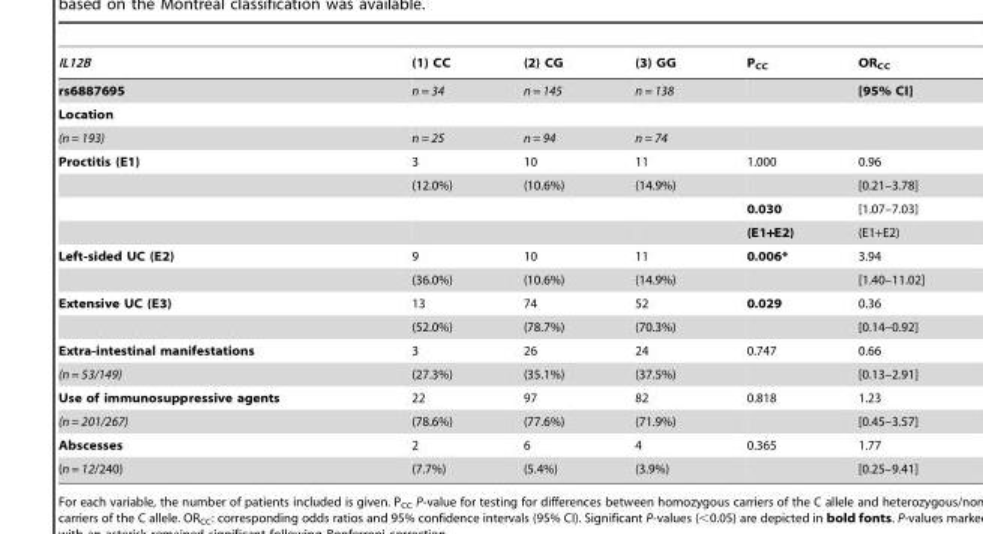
<table><thead><tr><td>IL12B</td><td>(1) CC</td><td>(2) CG</td><td>(3) GG</td><td>P<sub>CC</sub></td><td>OR<sub>CC</sub></td></tr></thead><tbody><tr><td>rs6887695</td><td>n = 34</td><td>n = 145</td><td>n = 138</td><td></td><td>[95% CI]</td></tr><tr><td colspan="6">Location</td></tr><tr><td>(n = 193)</td><td>n = 25</td><td>n = 94</td><td>n = 74</td><td></td><td></td></tr><tr><td rowspan="4">Proctitis (E1)</td><td>3</td><td>10</td><td>11</td><td>1.000</td><td>0.96</td></tr><tr><td>(12.0%)</td><td>(10.6%)</td><td>(14.9%)</td><td></td><td>[0.21–3.78]</td></tr><tr><td></td><td></td><td></td><td>0.030</td><td>[1.07–7.03]</td></tr><tr><td></td><td></td><td></td><td>(E1+E2)</td><td>(E1+E2)</td></tr><tr><td rowspan="2">Left-sided UC (E2)</td><td>9</td><td>10</td><td>11</td><td>0.006*</td><td>3.94</td></tr><tr><td>(36.0%)</td><td>(10.6%)</td><td>(14.9%)</td><td></td><td>[1.40–11.02]</td></tr><tr><td rowspan="2">Extensive UC (E3)</td><td>13</td><td>74</td><td>52</td><td>0.029</td><td>0.36</td></tr><tr><td>(52.0%)</td><td>(78.7%)</td><td>(70.3%)</td><td></td><td>[0.14–0.92]</td></tr><tr><td>Extra-intestinal manifestations</td><td>3</td><td>26</td><td>24</td><td>0.747</td><td>0.66</td></tr><tr><td>(n = 53/149)</td><td>(27.3%)</td><td>(35.1%)</td><td>(37.5%)</td><td></td><td>[0.13–2.91]</td></tr><tr><td>Use of immunosuppressive agents</td><td>22</td><td>97</td><td>82</td><td>0.818</td><td>1.23</td></tr><tr><td>(n = 201/267)</td><td>(78.6%)</td><td>(77.6%)</td><td>(71.9%)</td><td></td><td>[0.45–3.57]</td></tr><tr><td>Abscesses</td><td>2</td><td>6</td><td>4</td><td>0.365</td><td>1.77</td></tr><tr><td>(n = 12/240)</td><td>(7.7%)</td><td>(5.4%)</td><td>(3.9%)</td><td></td><td>[0.25–9.41]</td></tr></tbody></table>